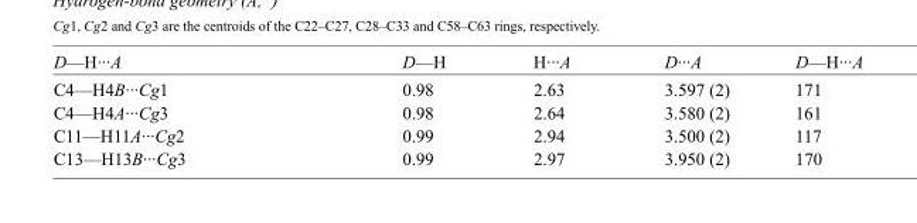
<table><tbody><tr><td>D—H···A</td><td>D—H</td><td>H···A</td><td>D···A</td><td>D—H···A</td></tr><tr><td>C4—H4B···Cg1</td><td>0.98</td><td>2.63</td><td>3.597 (2)</td><td>171</td></tr><tr><td>C4—H4A···Cg3</td><td>0.98</td><td>2.64</td><td>3.580 (2)</td><td>161</td></tr><tr><td>C11—H11A···Cg2</td><td>0.99</td><td>2.94</td><td>3.500 (2)</td><td>117</td></tr><tr><td>C13—H13B···Cg3</td><td>0.99</td><td>2.97</td><td>3.950 (2)</td><td>170</td></tr></tbody></table>